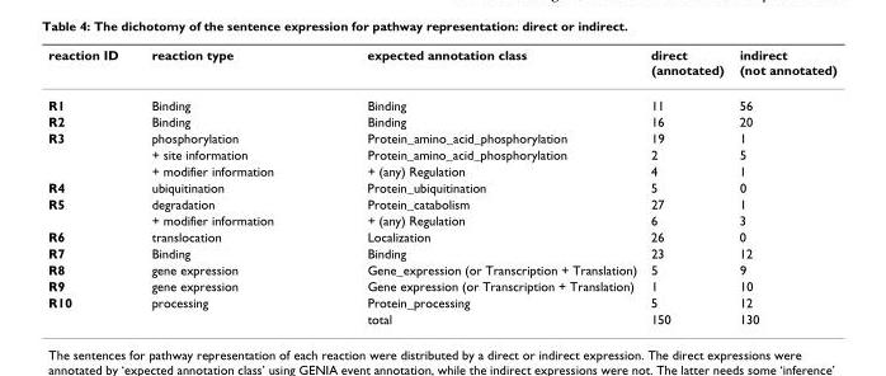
<table><thead><tr><td>reaction ID</td><td>reaction type</td><td>expected annotation class</td><td>direct (annotated)</td><td>indirect (not annotated)</td></tr></thead><tbody><tr><td>R1</td><td>Binding</td><td>Binding</td><td>11</td><td>56</td></tr><tr><td>R2</td><td>Binding</td><td>Binding</td><td>16</td><td>20</td></tr><tr><td rowspan="3">R3</td><td>phosphorylation</td><td>Protein_amino_acid_phosphorylation</td><td>19</td><td>1</td></tr><tr><td>+ site information</td><td>Protein_amino_acid_phosphorylation</td><td>2</td><td>5</td></tr><tr><td>+ modifier information</td><td>+ (any) Regulation</td><td>4</td><td>1</td></tr><tr><td>R4</td><td>ubiquitination</td><td>Protein_ubiquitination</td><td>5</td><td>0</td></tr><tr><td rowspan="2">R5</td><td>degradation</td><td>Protein_catabolism</td><td>27</td><td>1</td></tr><tr><td>+ modifier information</td><td>+ (any) Regulation</td><td>6</td><td>3</td></tr><tr><td>R6</td><td>translocation</td><td>Localization</td><td>26</td><td>0</td></tr><tr><td>R7</td><td>Binding</td><td>Binding</td><td>23</td><td>12</td></tr><tr><td>R8</td><td>gene expression</td><td>Gene_expression (or Transcription + Translation)</td><td>5</td><td>9</td></tr><tr><td>R9</td><td>gene expression</td><td>Gene expression (or Transcription + Translation)</td><td>1</td><td>10</td></tr><tr><td rowspan="2">R10</td><td>processing</td><td>Protein_processing</td><td>5</td><td>12</td></tr><tr><td></td><td>total</td><td>150</td><td>130</td></tr></tbody></table>